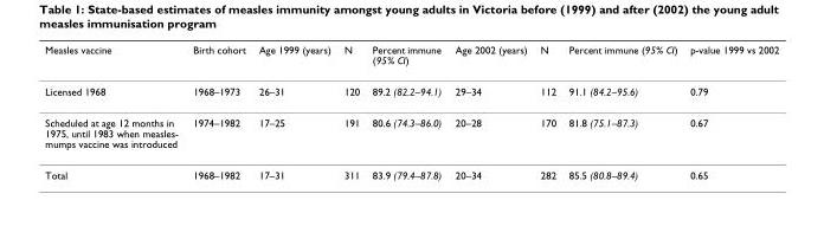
<table><thead><tr><td>Measles vaccine</td><td>Birth cohort</td><td>Age 1999 (years)</td><td>N</td><td>Percent immune (95% CI)</td><td>Age 2002 (years)</td><td>N</td><td>Percent immune (95% CI)</td><td>p-value 1999 vs 2002</td></tr></thead><tbody><tr><td>Licensed 1968</td><td>1968–1973</td><td>26–31</td><td>120</td><td>89.2 (82.2–94.1)</td><td>29–34</td><td>112</td><td>91.1 (84.2–95.6)</td><td>0.79</td></tr><tr><td>Scheduled at age 12 months in 1975, until 1983 when measles- mumps vaccine was introduced</td><td>1974–1982</td><td>17–25</td><td>191</td><td>80.6 (74.3–86.0)</td><td>20–28</td><td>170</td><td>81.8 (75.1–87.3)</td><td>0.67</td></tr><tr><td>Total</td><td>1968–1982</td><td>17–31</td><td>311</td><td>83.9 (79.4–87.8)</td><td>20–34</td><td>282</td><td>85.5 (80.8–89.4)</td><td>0.65</td></tr></tbody></table>